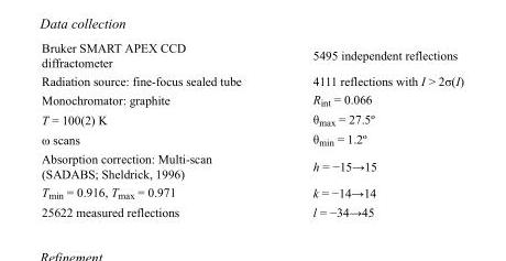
<table><tbody><tr><td>Bruker SMART APEX CCD diffractometer</td><td>5495 independent reflections</td></tr><tr><td>Radiation source: fine-focus sealed tube</td><td>4111 reflections with I &gt; 2σ(I)</td></tr><tr><td>Monochromator: graphite</td><td>R<sub>int</sub> = 0.066</td></tr><tr><td>T = 100(2) K</td><td>θ<sub>max</sub> = 27.5º</td></tr><tr><td>ω scans</td><td>θ<sub>min</sub> = 1.2º</td></tr><tr><td>Absorption correction: Multi-scan (SADABS; Sheldrick, 1996)</td><td>h = −15→15</td></tr><tr><td>T<sub>min</sub> = 0.916, T<sub>max</sub> = 0.971</td><td>k = −14→14</td></tr><tr><td>25622 measured reflections</td><td>l = −34→45</td></tr></tbody></table>